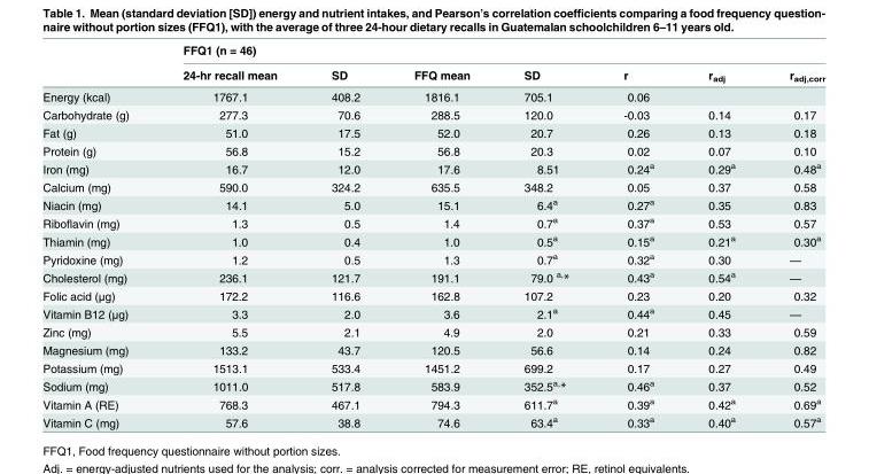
<table><thead><tr><td rowspan="2"></td><td colspan="7">FFQ1 (n = 46)</td></tr><tr><td>24-hr recall mean</td><td>SD</td><td>FFQ mean</td><td>SD</td><td>r</td><td>r<sub>adj</sub></td><td>r<sub>adj,corr</sub></td></tr></thead><tbody><tr><td>Energy (kcal)</td><td>1767.1</td><td>408.2</td><td>1816.1</td><td>705.1</td><td>0.06</td><td></td><td></td></tr><tr><td>Carbohydrate (g)</td><td>277.3</td><td>70.6</td><td>288.5</td><td>120.0</td><td>-0.03</td><td>0.14</td><td>0.17</td></tr><tr><td>Fat (g)</td><td>51.0</td><td>17.5</td><td>52.0</td><td>20.7</td><td>0.26</td><td>0.13</td><td>0.18</td></tr><tr><td>Protein (g)</td><td>56.8</td><td>15.2</td><td>56.8</td><td>20.3</td><td>0.02</td><td>0.07</td><td>0.10</td></tr><tr><td>Iron (mg)</td><td>16.7</td><td>12.0</td><td>17.6</td><td>8.51</td><td>0.24<sup>a</sup></td><td>0.29<sup>a</sup></td><td>0.48<sup>a</sup></td></tr><tr><td>Calcium (mg)</td><td>590.0</td><td>324.2</td><td>635.5</td><td>348.2</td><td>0.05</td><td>0.37</td><td>0.58</td></tr><tr><td>Niacin (mg)</td><td>14.1</td><td>5.0</td><td>15.1</td><td>6.4<sup>a</sup></td><td>0.27<sup>a</sup></td><td>0.35</td><td>0.83</td></tr><tr><td>Riboflavin (mg)</td><td>1.3</td><td>0.5</td><td>1.4</td><td>0.7<sup>a</sup></td><td>0.37<sup>a</sup></td><td>0.53</td><td>0.57</td></tr><tr><td>Thiamin (mg)</td><td>1.0</td><td>0.4</td><td>1.0</td><td>0.5<sup>a</sup></td><td>0.15<sup>a</sup></td><td>0.21<sup>a</sup></td><td>0.30<sup>a</sup></td></tr><tr><td>Pyridoxine (mg)</td><td>1.2</td><td>0.5</td><td>1.3</td><td>0.7<sup>a</sup></td><td>0.32<sup>a</sup></td><td>0.30</td><td>—</td></tr><tr><td>Cholesterol (mg)</td><td>236.1</td><td>121.7</td><td>191.1</td><td>79.0 <sup>a,</sup>*</td><td>0.43<sup>a</sup></td><td>0.54<sup>a</sup></td><td>—</td></tr><tr><td>Folic acid (μg)</td><td>172.2</td><td>116.6</td><td>162.8</td><td>107.2</td><td>0.23</td><td>0.20</td><td>0.32</td></tr><tr><td>Vitamin B12 (μg)</td><td>3.3</td><td>2.0</td><td>3.6</td><td>2.1<sup>a</sup></td><td>0.44<sup>a</sup></td><td>0.45</td><td>—</td></tr><tr><td>Zinc (mg)</td><td>5.5</td><td>2.1</td><td>4.9</td><td>2.0</td><td>0.21</td><td>0.33</td><td>0.59</td></tr><tr><td>Magnesium (mg)</td><td>133.2</td><td>43.7</td><td>120.5</td><td>56.6</td><td>0.14</td><td>0.24</td><td>0.82</td></tr><tr><td>Potassium (mg)</td><td>1513.1</td><td>533.4</td><td>1451.2</td><td>699.2</td><td>0.17</td><td>0.27</td><td>0.49</td></tr><tr><td>Sodium (mg)</td><td>1011.0</td><td>517.8</td><td>583.9</td><td>352.5<sup>a,</sup>*</td><td>0.46<sup>a</sup></td><td>0.37</td><td>0.52</td></tr><tr><td>Vitamin A (RE)</td><td>768.3</td><td>467.1</td><td>794.3</td><td>611.7<sup>a</sup></td><td>0.39<sup>a</sup></td><td>0.42<sup>a</sup></td><td>0.69<sup>a</sup></td></tr><tr><td>Vitamin C (mg)</td><td>57.6</td><td>38.8</td><td>74.6</td><td>63.4<sup>a</sup></td><td>0.33<sup>a</sup></td><td>0.40<sup>a</sup></td><td>0.57<sup>a</sup></td></tr></tbody></table>